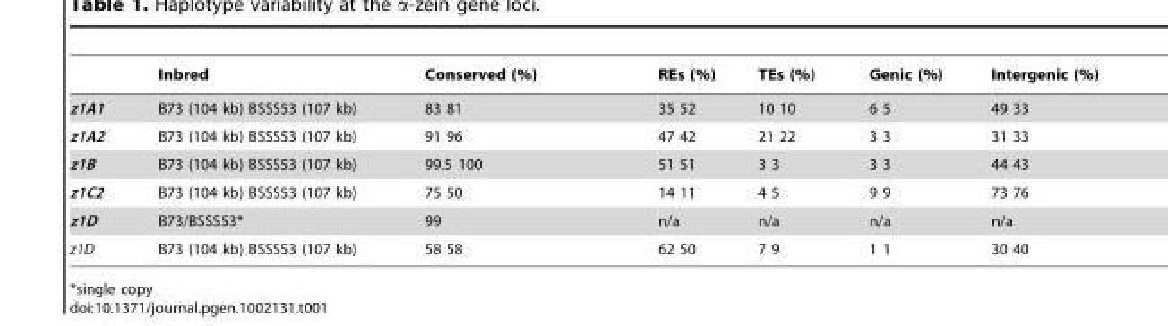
<table><thead><tr><td></td><td>Inbred</td><td>Conserved (%)</td><td>REs (%)</td><td>TEs (%)</td><td>Genic (%)</td><td>Intergenic (%)</td></tr></thead><tbody><tr><td>z1A1</td><td>B73 (104 kb) BSSS53 (107 kb)</td><td>83 81</td><td>35 52</td><td>10 10</td><td>6 5</td><td>49 33</td></tr><tr><td>z1A2</td><td>B73 (104 kb) BSSS53 (107 kb)</td><td>91 96</td><td>47 42</td><td>21 22</td><td>3 3</td><td>31 33</td></tr><tr><td>z1B</td><td>B73 (104 kb) BSSS53 (107 kb)</td><td>99.5 100</td><td>51 51</td><td>3 3</td><td>3 3</td><td>44 43</td></tr><tr><td>z1C2</td><td>B73 (104 kb) BSSS53 (107 kb)</td><td>75 50</td><td>14 11</td><td>4 5</td><td>9 9</td><td>73 76</td></tr><tr><td>z1D</td><td>B73/BSSS53*</td><td>99</td><td>n/a</td><td>n/a</td><td>n/a</td><td>n/a</td></tr><tr><td>z1D</td><td>B73 (104 kb) BSSS53 (107 kb)</td><td>58 58</td><td>62 50</td><td>7 9</td><td>1 1</td><td>30 40</td></tr></tbody></table>